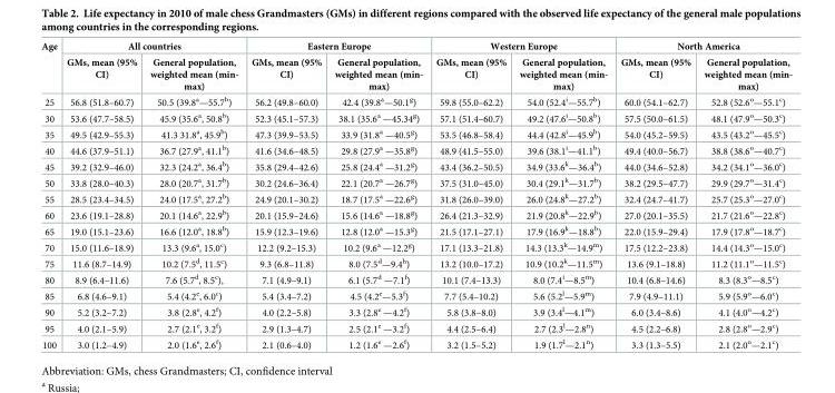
<table><thead><tr><td rowspan="2">Age</td><td colspan="2">All countries</td><td colspan="2">Eastern Europe</td><td colspan="2">Western Europe</td><td colspan="2">North America</td></tr><tr><td>GMs, mean (95% CI)</td><td>General population, weighted mean (min- max)</td><td>GMs, mean (95% CI)</td><td>General population, weighted mean (min- max)</td><td>GMs, mean (95% CI)</td><td>General population, weighted mean (min- max)</td><td>GMs, mean (95% CI)</td><td>General population, weighted mean (min- max)</td></tr></thead><tbody><tr><td>25</td><td>56.8 (51.8–60.7)</td><td>50.5 (39.8<sup>a</sup>—55.7<sup>b</sup>)</td><td>56.2 (49.8–60.0)</td><td>42.4 (39.8<sup>a</sup>—50.1<sup>g</sup>)</td><td>59.8 (55.0–62.2)</td><td>54.0 (52.4<sup>i</sup>—55.7<sup>b</sup>)</td><td>60.0 (54.1–62.7)</td><td>52.8 (52.6<sup>o</sup>—55.1<sup>c</sup>)</td></tr><tr><td>30</td><td>53.6 (47.7–58.5)</td><td>45.9 (35.6<sup>a</sup>, 50.8<sup>b</sup>)</td><td>52.3 (45.1–57.3)</td><td>38.1 (35.6<sup>a</sup> —45.34<sup>g</sup>)</td><td>57.1 (51.4–60.7)</td><td>49.2 (47.6<sup>i</sup>—50.8<sup>b</sup>)</td><td>57.5 (50.0–61.5)</td><td>48.1 (47.9<sup>o</sup>—50.3<sup>c</sup>)</td></tr><tr><td>35</td><td>49.5 (42.9–55.3)</td><td>41.3 31.8<sup>a</sup>, 45.9<sup>b</sup>)</td><td>47.3 (39.9–53.5)</td><td>33.9 (31.8<sup>a</sup> —40.5<sup>g</sup>)</td><td>53.5 (46.8–58.4)</td><td>44.4 (42.8<sup>i</sup>—45.9<sup>b</sup>)</td><td>54.0 (45.2–59.5)</td><td>43.5 (43.2<sup>o</sup>—45.5<sup>c</sup>)</td></tr><tr><td>40</td><td>44.6 (37.9–51.1)</td><td>36.7 (27.9<sup>a</sup>, 41.1<sup>b</sup>)</td><td>41.6 (34.6–48.5)</td><td>29.8 (27.9<sup>a</sup> —35.8<sup>g</sup>)</td><td>48.9 (41.5–55.0)</td><td>39.6 (38.1<sup>i</sup>—41.1<sup>b</sup>)</td><td>49.4 (40.0–56.7)</td><td>38.8 (38.6<sup>o</sup>—40.7<sup>c</sup>)</td></tr><tr><td>45</td><td>39.2 (32.9–46.0)</td><td>32.3 (24.2<sup>a</sup>, 36.4<sup>b</sup>)</td><td>35.8 (29.4–42.6)</td><td>25.8 (24.4<sup>a</sup> —31.2<sup>g</sup>)</td><td>43.4 (36.2–50.5)</td><td>34.9 (33.6<sup>k</sup>—36.4<sup>b</sup>)</td><td>44.0 (34.6–52.8)</td><td>34.2 (34.1<sup>o</sup>—36.0<sup>c</sup>)</td></tr><tr><td>50</td><td>33.8 (28.0–40.3)</td><td>28.0 (20.7<sup>a</sup>, 31.7<sup>b</sup>)</td><td>30.2 (24.6–36.4)</td><td>22.1 (20.7<sup>a</sup> —26.7<sup>g</sup>)</td><td>37.5 (31.0–45.0)</td><td>30.4 (29.1<sup>k</sup>—31.7<sup>b</sup>)</td><td>38.2 (29.5–47.7)</td><td>29.9 (29.7<sup>o</sup>—31.4<sup>c</sup>)</td></tr><tr><td>55</td><td>28.5 (23.4–34.5)</td><td>24.0 (17.5<sup>a</sup>, 27.2<sup>b</sup>)</td><td>24.9 (20.1–30.2)</td><td>18.7 (17.5<sup>a</sup> —22.6<sup>g</sup>)</td><td>31.8 (26.0–39.0)</td><td>26.0 (24.8<sup>k</sup>—27.2<sup>b</sup>)</td><td>32.4 (24.7–41.7)</td><td>25.7 (25.3<sup>o</sup>—27.0<sup>c</sup>)</td></tr><tr><td>60</td><td>23.6 (19.1–28.8)</td><td>20.1 (14.6<sup>a</sup>, 22.9<sup>b</sup>)</td><td>20.1 (15.9–24.6)</td><td>15.6 (14.6<sup>a</sup> —18.8<sup>g</sup>)</td><td>26.4 (21.3–32.9)</td><td>21.9 (20.8<sup>k</sup>—22.9<sup>b</sup>)</td><td>27.0 (20.1–35.5)</td><td>21.7 (21.6<sup>o</sup>—22.8<sup>c</sup>)</td></tr><tr><td>65</td><td>19.0 (15.1–23.6)</td><td>16.6 (12.0<sup>a</sup>, 18.8<sup>b</sup>)</td><td>15.9 (12.3–19.6)</td><td>12.8 (12.0<sup>a</sup> —15.3<sup>g</sup>)</td><td>21.5 (17.1–27.1)</td><td>17.9 (16.9<sup>k</sup>—18.8<sup>b</sup>)</td><td>22.0 (15.9–29.4)</td><td>17.9 (17.8<sup>o</sup>—18.7<sup>c</sup>)</td></tr><tr><td>70</td><td>15.0 (11.6–18.9)</td><td>13.3 (9.6<sup>a</sup>, 15.0<sup>c</sup>)</td><td>12.2 (9.2–15.3)</td><td>10.2 (9.6<sup>a</sup> —12.2<sup>g</sup>)</td><td>17.1 (13.3–21.8)</td><td>14.3 (13.3<sup>k</sup>—14.9<sup>m</sup>)</td><td>17.5 (12.2–23.8)</td><td>14.4 (14.3<sup>o</sup>—15.0<sup>c</sup>)</td></tr><tr><td>75</td><td>11.6 (8.7–14.9)</td><td>10.2 (7.5<sup>d</sup>, 11.5<sup>c</sup>)</td><td>9.3 (6.8–11.8)</td><td>8.0 (7.5<sup>d</sup>—9.4<sup>h</sup>)</td><td>13.2 (10.0–17.2)</td><td>10.9 (10.2<sup>k</sup>—11.5<sup>m</sup>)</td><td>13.6 (9.1–18.8)</td><td>11.2 (11.1<sup>o</sup>—11.5<sup>c</sup>)</td></tr><tr><td>80</td><td>8.9 (6.4–11.6)</td><td>7.6 (5.7<sup>d</sup>, 8.5<sup>c</sup>),</td><td>7.1 (4.9–9.1)</td><td>6.1 (5.7<sup>d</sup> —7.1<sup>f</sup>)</td><td>10.1 (7.4–13.3)</td><td>8.0 (7.4<sup>i</sup>—8.5<sup>m</sup>)</td><td>10.4 (6.8–14.6)</td><td>8.3 (8.3<sup>o</sup>—8.5<sup>c</sup>)</td></tr><tr><td>85</td><td>6.8 (4.6–9.1)</td><td>5.4 (4.2<sup>e</sup>, 6.0<sup>c</sup>)</td><td>5.4 (3.4–7.2)</td><td>4.5 (4.2<sup>e</sup>—5.3<sup>f</sup>)</td><td>7.7 (5.4–10.2)</td><td>5.6 (5.2<sup>l</sup>—5.9<sup>m</sup>)</td><td>7.9 (4.9–11.1)</td><td>5.9 (5.9<sup>o</sup>—6.0<sup>c</sup>)</td></tr><tr><td>90</td><td>5.2 (3.2–7.2)</td><td>3.8 (2.8<sup>e</sup>, 4.2<sup>f</sup>)</td><td>4.0 (2.2–5.8)</td><td>3.3 (2.8<sup>e</sup> —4.2<sup>f</sup>)</td><td>5.8 (3.8–8.0)</td><td>3.9 (3.4<sup>l</sup>—4.1<sup>m</sup>)</td><td>6.0 (3.4–8.6)</td><td>4.1 (4.0<sup>o</sup>—4.2<sup>c</sup>)</td></tr><tr><td>95</td><td>4.0 (2.1–5.9)</td><td>2.7 (2.1<sup>e</sup>, 3.2<sup>f</sup>)</td><td>2.9 (1.3–4.7)</td><td>2.5 (2.1<sup>e</sup> —3.2<sup>f</sup>)</td><td>4.4 (2.5–6.4)</td><td>2.7 (2.3<sup>l</sup>—2.8<sup>n</sup>)</td><td>4.5 (2.2–6.8)</td><td>2.8 (2.8<sup>o</sup>—2.9<sup>c</sup>)</td></tr><tr><td>100</td><td>3.0 (1.2–4.9)</td><td>2.0 (1.6<sup>e</sup>, 2.6<sup>f</sup>)</td><td>2.1 (0.6–4.0)</td><td>1.2 (1.6<sup>e</sup> —2.6<sup>f</sup>)</td><td>3.2 (1.5–5.2)</td><td>1.9 (1.7<sup>l</sup>—2.1<sup>n</sup>)</td><td>3.3 (1.3–5.5)</td><td>2.1 (2.0<sup>o</sup>—2.1<sup>c</sup>)</td></tr></tbody></table>